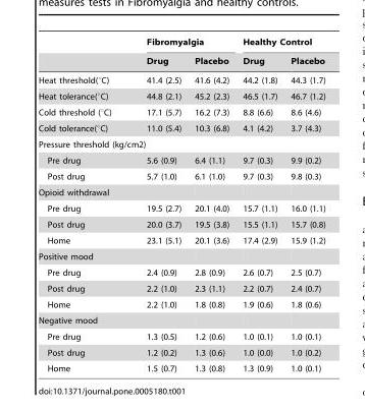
<table><thead><tr><td rowspan="2"></td><td colspan="2">Fibromyalgia</td><td colspan="2">Healthy Control</td></tr><tr><td>Drug</td><td>Placebo</td><td>Drug</td><td>Placebo</td></tr></thead><tbody><tr><td>Heat threshold(°C)</td><td>41.4 (2.5)</td><td>41.6 (4.2)</td><td>44.2 (1.8)</td><td>44.3 (1.7)</td></tr><tr><td>Heat tolerance(°C)</td><td>44.8 (2.1)</td><td>45.2 (2.3)</td><td>46.5 (1.7)</td><td>46.7 (1.2)</td></tr><tr><td>Cold threshold (°C)</td><td>17.1 (5.7)</td><td>16.2 (7.3)</td><td>8.8 (6.6)</td><td>8.6 (4.6)</td></tr><tr><td>Cold tolerance(°C)</td><td>11.0 (5.4)</td><td>10.3 (6.8)</td><td>4.1 (4.2)</td><td>3.7 (4.3)</td></tr><tr><td colspan="5">Pressure threshold (kg/cm2)</td></tr><tr><td>Pre drug</td><td>5.6 (0.9)</td><td>6.4 (1.1)</td><td>9.7 (0.3)</td><td>9.9 (0.2)</td></tr><tr><td>Post drug</td><td>5.7 (1.0)</td><td>6.1 (1.0)</td><td>9.7 (0.3)</td><td>9.8 (0.3)</td></tr><tr><td colspan="5">Opioid withdrawal</td></tr><tr><td>Pre drug</td><td>19.5 (2.7)</td><td>20.1 (4.0)</td><td>15.7 (1.1)</td><td>16.0 (1.1)</td></tr><tr><td>Post drug</td><td>20.0 (3.7)</td><td>19.5 (3.8)</td><td>15.5 (1.1)</td><td>15.7 (0.8)</td></tr><tr><td>Home</td><td>23.1 (5.1)</td><td>20.1 (3.6)</td><td>17.4 (2.9)</td><td>15.9 (1.2)</td></tr><tr><td colspan="5">Positive mood</td></tr><tr><td>Pre drug</td><td>2.4 (0.9)</td><td>2.8 (0.9)</td><td>2.6 (0.7)</td><td>2.5 (0.7)</td></tr><tr><td>Post drug</td><td>2.2 (1.0)</td><td>2.3 (1.1)</td><td>2.2 (0.7)</td><td>2.4 (0.7)</td></tr><tr><td>Home</td><td>2.2 (1.0)</td><td>1.8 (0.8)</td><td>1.9 (0.6)</td><td>1.8 (0.6)</td></tr><tr><td colspan="5">Negative mood</td></tr><tr><td>Pre drug</td><td>1.3 (0.5)</td><td>1.2 (0.6)</td><td>1.0 (0.1)</td><td>1.0 (0.1)</td></tr><tr><td>Post drug</td><td>1.2 (0.2)</td><td>1.3 (0.6)</td><td>1.0 (0.0)</td><td>1.0 (0.2)</td></tr><tr><td>Home</td><td>1.5 (0.7)</td><td>1.3 (0.8)</td><td>1.3 (0.9)</td><td>1.0 (0.1)</td></tr></tbody></table>